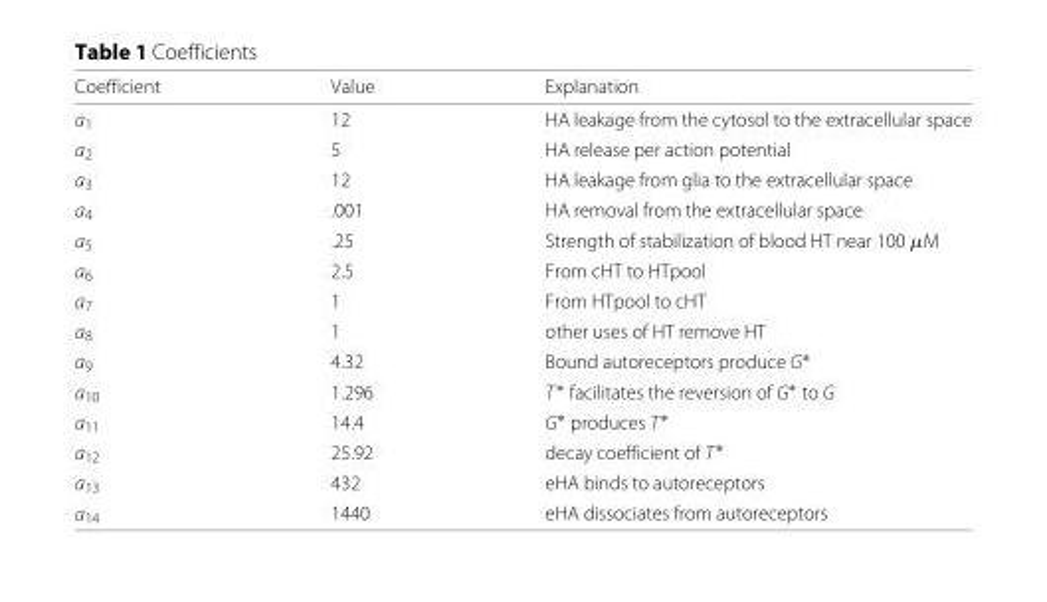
<table><thead><tr><td>Coefficient</td><td>Value</td><td>Explanation</td></tr></thead><tbody><tr><td>a<sub>1</sub></td><td>12</td><td>HA leakage from the cytosol to the extracellular space</td></tr><tr><td>a<sub>2</sub></td><td>5</td><td>HA release per action potential</td></tr><tr><td>a<sub>3</sub></td><td>12</td><td>HA leakage from glia to the extracellular space</td></tr><tr><td>a<sub>4</sub></td><td>.001</td><td>HA removal from the extracellular space</td></tr><tr><td>a<sub>5</sub></td><td>.25</td><td>Strength of stabilization of blood HT near 100 μM</td></tr><tr><td>a<sub>6</sub></td><td>2.5</td><td>From cHT to HTpool</td></tr><tr><td>a<sub>7</sub></td><td>1</td><td>From HTpool to cHT</td></tr><tr><td>a<sub>8</sub></td><td>1</td><td>other uses of HT remove HT</td></tr><tr><td>a<sub>9</sub></td><td>4.32</td><td>Bound autoreceptors produce G∗</td></tr><tr><td>a<sub>10</sub></td><td>1.296</td><td>T∗ facilitates the reversion of G∗ to G</td></tr><tr><td>a<sub>11</sub></td><td>14.4</td><td>G∗ produces T∗</td></tr><tr><td>a<sub>12</sub></td><td>25.92</td><td>decay coefficient of T∗</td></tr><tr><td>a<sub>13</sub></td><td>432</td><td>eHA binds to autoreceptors</td></tr><tr><td>a<sub>14</sub></td><td>1440</td><td>eHA dissociates from autoreceptors</td></tr></tbody></table>